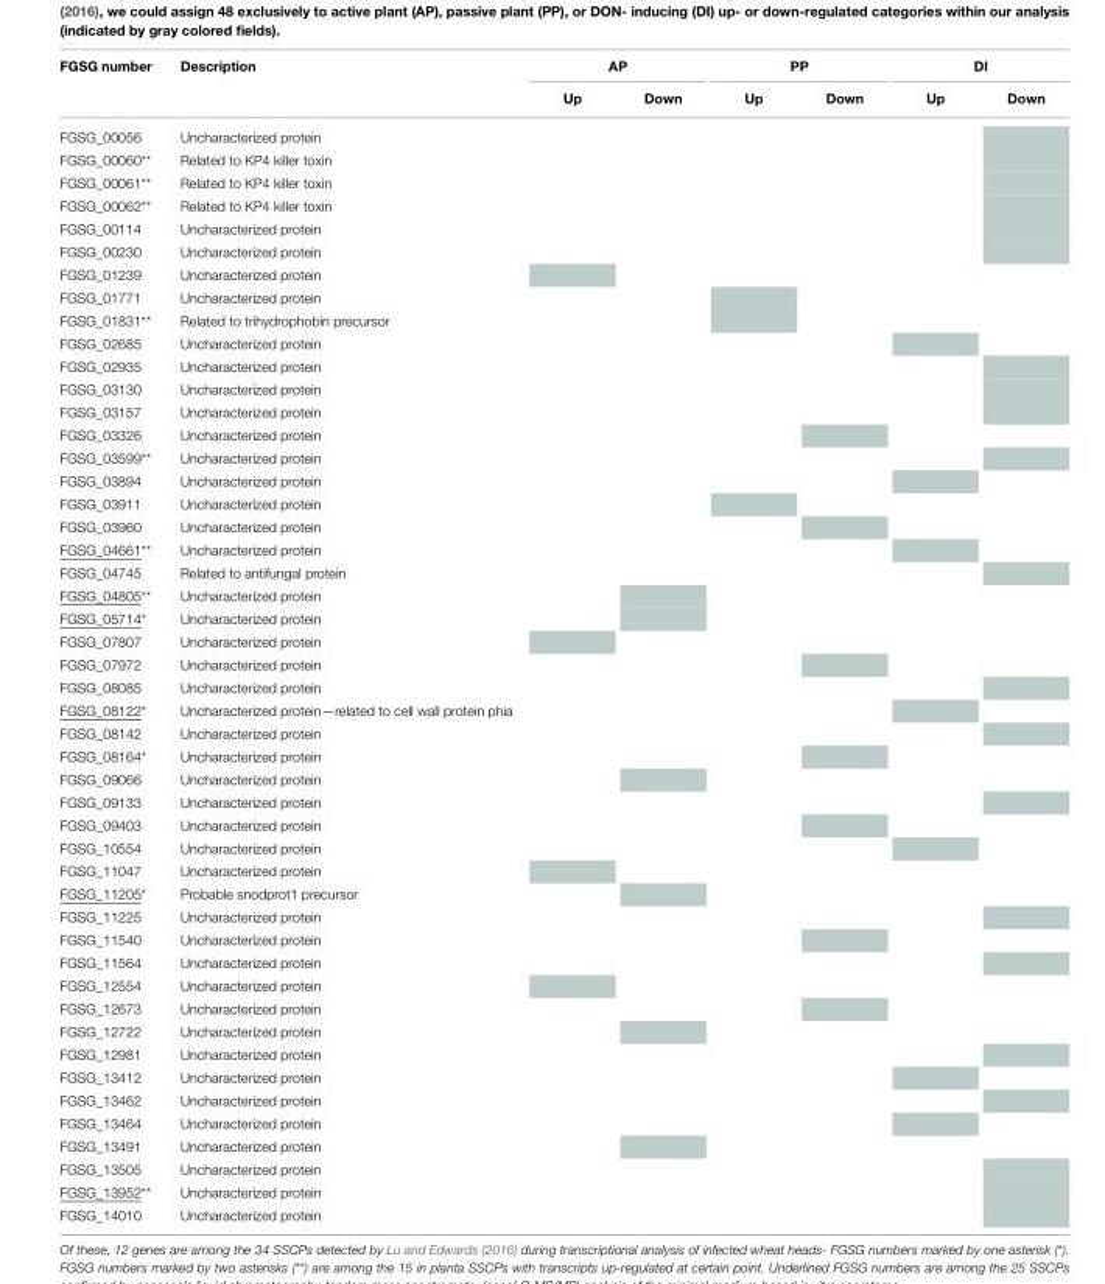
<table><thead><tr><td rowspan="2">FGSG number</td><td rowspan="2">Description</td><td colspan="2">AP</td><td colspan="2">PP</td><td colspan="2">DI</td></tr><tr><td>Up</td><td>Down</td><td>Up</td><td>Down</td><td>Up</td><td>Down</td></tr></thead><tbody><tr><td>FGSG_00056</td><td>Uncharacterized protein</td><td></td><td></td><td></td><td></td><td></td><td></td></tr><tr><td>FGSG_00060**</td><td>Related to KP4 killer toxin</td><td></td><td></td><td></td><td></td><td></td><td></td></tr><tr><td>FGSG_00061**</td><td>Related to KP4 killer toxin</td><td></td><td></td><td></td><td></td><td></td><td></td></tr><tr><td>FGSG_00062**</td><td>Related to KP4 killer toxin</td><td></td><td></td><td></td><td></td><td></td><td></td></tr><tr><td>FGSG_00114</td><td>Uncharacterized protein</td><td></td><td></td><td></td><td></td><td></td><td></td></tr><tr><td>FGSG_00230</td><td>Uncharacterized protein</td><td></td><td></td><td></td><td></td><td></td><td></td></tr><tr><td>FGSG_01239</td><td>Uncharacterized protein</td><td></td><td></td><td></td><td></td><td></td><td></td></tr><tr><td>FGSG_01771</td><td>Uncharacterized protein</td><td></td><td></td><td></td><td></td><td></td><td></td></tr><tr><td>FGSG_01831**</td><td>Related to trihydrophobin precursor</td><td></td><td></td><td></td><td></td><td></td><td></td></tr><tr><td>FGSG_02685</td><td>Uncharacterized protein</td><td></td><td></td><td></td><td></td><td></td><td></td></tr><tr><td>FGSG_02935</td><td>Uncharacterized protein</td><td></td><td></td><td></td><td></td><td></td><td></td></tr><tr><td>FGSG_03130</td><td>Uncharacterized protein</td><td></td><td></td><td></td><td></td><td></td><td></td></tr><tr><td>FGSG_03157</td><td>Uncharacterized protein</td><td></td><td></td><td></td><td></td><td></td><td></td></tr><tr><td>FGSG_03326</td><td>Uncharacterized protein</td><td></td><td></td><td></td><td></td><td></td><td></td></tr><tr><td>FGSG_03599**</td><td>Uncharacterized protein</td><td></td><td></td><td></td><td></td><td></td><td></td></tr><tr><td>FGSG_03894</td><td>Uncharacterized protein</td><td></td><td></td><td></td><td></td><td></td><td></td></tr><tr><td>FGSG_03911</td><td>Uncharacterized protein</td><td></td><td></td><td></td><td></td><td></td><td></td></tr><tr><td>FGSG_03960</td><td>Uncharacterized protein</td><td></td><td></td><td></td><td></td><td></td><td></td></tr><tr><td>FGSG_04661**</td><td>Uncharacterized protein</td><td></td><td></td><td></td><td></td><td></td><td></td></tr><tr><td>FGSG_04745</td><td>Related to antifungal protein</td><td></td><td></td><td></td><td></td><td></td><td></td></tr><tr><td>FGSG_04805**</td><td>Uncharacterized protein</td><td></td><td></td><td></td><td></td><td></td><td></td></tr><tr><td>FGSG_05714*</td><td>Uncharacterized protein</td><td></td><td></td><td></td><td></td><td></td><td></td></tr><tr><td>FGSG_07807</td><td>Uncharacterized protein</td><td></td><td></td><td></td><td></td><td></td><td></td></tr><tr><td>FGSG_07972</td><td>Uncharacterized protein</td><td></td><td></td><td></td><td></td><td></td><td></td></tr><tr><td>FGSG_08085</td><td>Uncharacterized protein</td><td></td><td></td><td></td><td></td><td></td><td></td></tr><tr><td>FGSG_08122*</td><td>Uncharacterized protein—related to cell wall protein phia</td><td></td><td></td><td></td><td></td><td></td><td></td></tr><tr><td>FGSG_08142</td><td>Uncharacterized protein</td><td></td><td></td><td></td><td></td><td></td><td></td></tr><tr><td>FGSG_08164*</td><td>Uncharacterized protein</td><td></td><td></td><td></td><td></td><td></td><td></td></tr><tr><td>FGSG_09066</td><td>Uncharacterized protein</td><td></td><td></td><td></td><td></td><td></td><td></td></tr><tr><td>FGSG_09133</td><td>Uncharacterized protein</td><td></td><td></td><td></td><td></td><td></td><td></td></tr><tr><td>FGSG_09403</td><td>Uncharacterized protein</td><td></td><td></td><td></td><td></td><td></td><td></td></tr><tr><td>FGSG_10554</td><td>Uncharacterized protein</td><td></td><td></td><td></td><td></td><td></td><td></td></tr><tr><td>FGSG_11047</td><td>Uncharacterized protein</td><td></td><td></td><td></td><td></td><td></td><td></td></tr><tr><td>FGSG_11205*</td><td>Probable snodprot1 precursor</td><td></td><td></td><td></td><td></td><td></td><td></td></tr><tr><td>FGSG_11225</td><td>Uncharacterized protein</td><td></td><td></td><td></td><td></td><td></td><td></td></tr><tr><td>FGSG_11540</td><td>Uncharacterized protein</td><td></td><td></td><td></td><td></td><td></td><td></td></tr><tr><td>FGSG_11564</td><td>Uncharacterized protein</td><td></td><td></td><td></td><td></td><td></td><td></td></tr><tr><td>FGSG_12554</td><td>Uncharacterized protein</td><td></td><td></td><td></td><td></td><td></td><td></td></tr><tr><td>FGSG_12673</td><td>Uncharacterized protein</td><td></td><td></td><td></td><td></td><td></td><td></td></tr><tr><td>FGSG_12722</td><td>Uncharacterized protein</td><td></td><td></td><td></td><td></td><td></td><td></td></tr><tr><td>FGSG_12981</td><td>Uncharacterized protein</td><td></td><td></td><td></td><td></td><td></td><td></td></tr><tr><td>FGSG_13412</td><td>Uncharacterized protein</td><td></td><td></td><td></td><td></td><td></td><td></td></tr><tr><td>FGSG_13462</td><td>Uncharacterized protein</td><td></td><td></td><td></td><td></td><td></td><td></td></tr><tr><td>FGSG_13464</td><td>Uncharacterized protein</td><td></td><td></td><td></td><td></td><td></td><td></td></tr><tr><td>FGSG_13491</td><td>Uncharacterized protein</td><td></td><td></td><td></td><td></td><td></td><td></td></tr><tr><td>FGSG_13505</td><td>Uncharacterized protein</td><td></td><td></td><td></td><td></td><td></td><td></td></tr><tr><td>FGSG_13952**</td><td>Uncharacterized protein</td><td></td><td></td><td></td><td></td><td></td><td></td></tr><tr><td>FGSG_14010</td><td>Uncharacterized protein</td><td></td><td></td><td></td><td></td><td></td><td></td></tr></tbody></table>